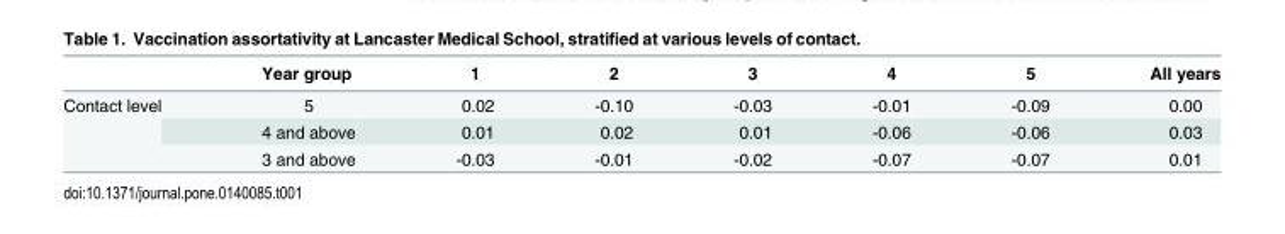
<table><thead><tr><td></td><td>Year group</td><td>1</td><td>2</td><td>3</td><td>4</td><td>5</td><td>All years</td></tr></thead><tbody><tr><td rowspan="3">Contact level</td><td>5</td><td>0.02</td><td>-0.10</td><td>-0.03</td><td>-0.01</td><td>-0.09</td><td>0.00</td></tr><tr><td>4 and above</td><td>0.01</td><td>0.02</td><td>0.01</td><td>-0.06</td><td>-0.06</td><td>0.03</td></tr><tr><td>3 and above</td><td>-0.03</td><td>-0.01</td><td>-0.02</td><td>-0.07</td><td>-0.07</td><td>0.01</td></tr></tbody></table>